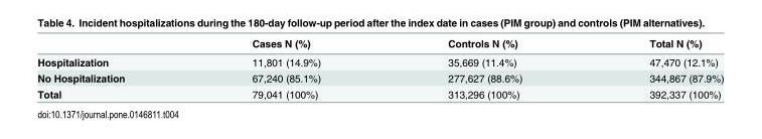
<table><thead><tr><td></td><td>Cases N (%)</td><td>Controls N (%)</td><td>Total N (%)</td></tr></thead><tbody><tr><td>Hospitalization</td><td>11,801 (14.9%)</td><td>35,669 (11.4%)</td><td>47,470 (12.1%)</td></tr><tr><td>No Hospitalization</td><td>67,240 (85.1%)</td><td>277,627 (88.6%)</td><td>344,867 (87.9%)</td></tr><tr><td>Total</td><td>79,041 (100%)</td><td>313,296 (100%)</td><td>392,337 (100%)</td></tr></tbody></table>